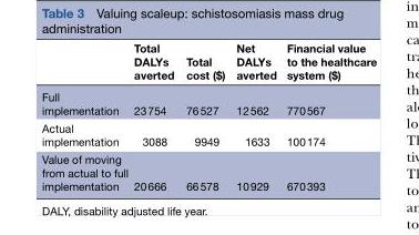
<table><thead><tr><td></td><td>Total DALYs averted</td><td>Total cost ($)</td><td>Net DALYs averted</td><td>Financial value to the healthcare system ($)</td></tr></thead><tbody><tr><td>Full implementation</td><td>23 754</td><td>76 527</td><td>12 562</td><td>770 567</td></tr><tr><td>Actual implementation</td><td>3088</td><td>9949</td><td>1633</td><td>100 174</td></tr><tr><td>Value of moving from actual to full implementation</td><td>20 666</td><td>66 578</td><td>10 929</td><td>670 393</td></tr></tbody></table>